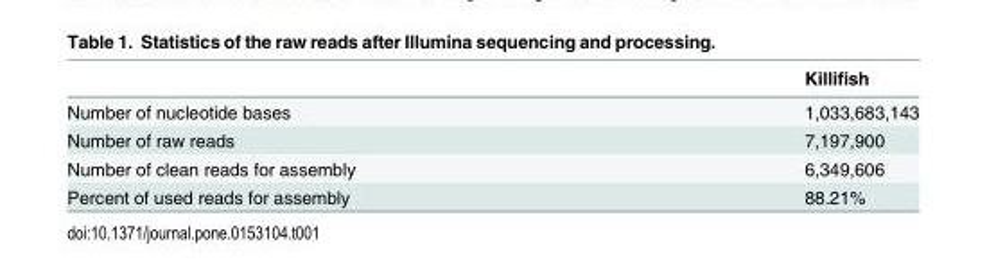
<table><thead><tr><td></td><td>Killifish</td></tr></thead><tbody><tr><td>Number of nucleotide bases</td><td>1,033,683,143</td></tr><tr><td>Number of raw reads</td><td>7,197,900</td></tr><tr><td>Number of clean reads for assembly</td><td>6,349,606</td></tr><tr><td>Percent of used reads for assembly</td><td>88.21%</td></tr></tbody></table>